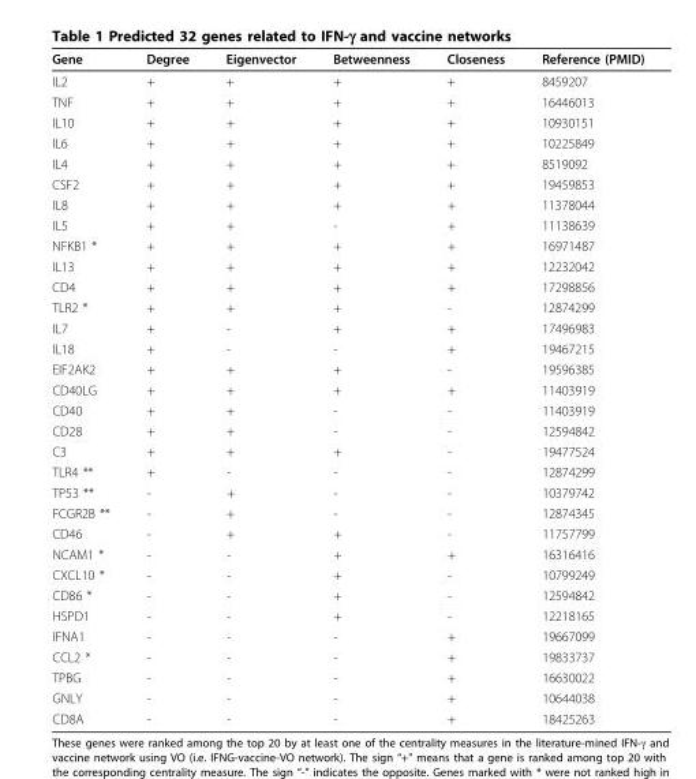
<table><thead><tr><td>Gene</td><td>Degree</td><td>Eigenvector</td><td>Betweenness</td><td>Closeness</td><td>Reference (PMID)</td></tr></thead><tbody><tr><td>IL2</td><td>+</td><td>+</td><td>+</td><td>+</td><td>8459207</td></tr><tr><td>TNF</td><td>+</td><td>+</td><td>+</td><td>+</td><td>16446013</td></tr><tr><td>IL10</td><td>+</td><td>+</td><td>+</td><td>+</td><td>10930151</td></tr><tr><td>IL6</td><td>+</td><td>+</td><td>+</td><td>+</td><td>10225849</td></tr><tr><td>IL4</td><td>+</td><td>+</td><td>+</td><td>+</td><td>8519092</td></tr><tr><td>CSF2</td><td>+</td><td>+</td><td>+</td><td>+</td><td>19459853</td></tr><tr><td>IL8</td><td>+</td><td>+</td><td>+</td><td>+</td><td>11378044</td></tr><tr><td>IL5</td><td>+</td><td>+</td><td>-</td><td>+</td><td>11138639</td></tr><tr><td>NFKB1 *</td><td>+</td><td>+</td><td>+</td><td>+</td><td>16971487</td></tr><tr><td>IL13</td><td>+</td><td>+</td><td>+</td><td>+</td><td>12232042</td></tr><tr><td>CD4</td><td>+</td><td>+</td><td>+</td><td>+</td><td>17298856</td></tr><tr><td>TLR2 *</td><td>+</td><td>+</td><td>+</td><td>-</td><td>12874299</td></tr><tr><td>IL7</td><td>+</td><td>-</td><td>+</td><td>+</td><td>17496983</td></tr><tr><td>IL18</td><td>+</td><td>-</td><td>-</td><td>+</td><td>19467215</td></tr><tr><td>EIF2AK2</td><td>+</td><td>+</td><td>+</td><td>-</td><td>19596385</td></tr><tr><td>CD40LG</td><td>+</td><td>+</td><td>+</td><td>+</td><td>11403919</td></tr><tr><td>CD40</td><td>+</td><td>+</td><td>-</td><td>-</td><td>11403919</td></tr><tr><td>CD28</td><td>+</td><td>+</td><td>-</td><td>-</td><td>12594842</td></tr><tr><td>C3</td><td>+</td><td>+</td><td>+</td><td>-</td><td>19477524</td></tr><tr><td>TLR4 **</td><td>+</td><td>-</td><td>-</td><td>-</td><td>12874299</td></tr><tr><td>TP53 **</td><td>-</td><td>+</td><td>-</td><td>-</td><td>10379742</td></tr><tr><td>FCGR2B **</td><td>-</td><td>+</td><td>-</td><td>-</td><td>12874345</td></tr><tr><td>CD46</td><td>-</td><td>+</td><td>+</td><td>-</td><td>11757799</td></tr><tr><td>NCAM1 *</td><td>-</td><td>-</td><td>+</td><td>+</td><td>16316416</td></tr><tr><td>CXCL10 *</td><td>-</td><td>-</td><td>+</td><td>-</td><td>10799249</td></tr><tr><td>CD86 *</td><td>-</td><td>-</td><td>+</td><td>-</td><td>12594842</td></tr><tr><td>HSPD1</td><td>-</td><td>-</td><td>+</td><td>-</td><td>12218165</td></tr><tr><td>IFNA1</td><td>-</td><td>-</td><td>-</td><td>+</td><td>19667099</td></tr><tr><td>CCL2 *</td><td>-</td><td>-</td><td>-</td><td>+</td><td>19833737</td></tr><tr><td>TPBG</td><td>-</td><td>-</td><td>-</td><td>+</td><td>16630022</td></tr><tr><td>GNLY</td><td>-</td><td>-</td><td>-</td><td>+</td><td>10644038</td></tr><tr><td>CD8A</td><td>-</td><td>-</td><td>-</td><td>+</td><td>18425263</td></tr></tbody></table>